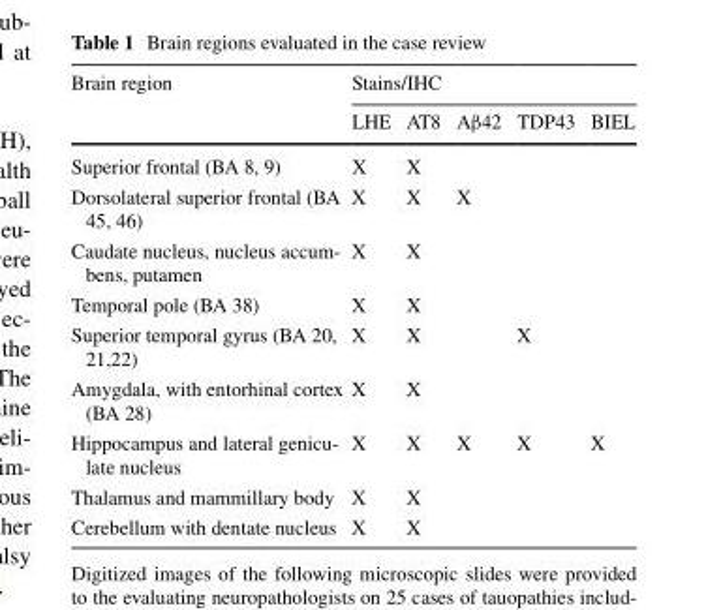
<table><thead><tr><td rowspan="2">Brain region</td><td colspan="5">Stains/IHC</td></tr><tr><td>LHE</td><td>AT8</td><td>Aβ42</td><td>TDP43</td><td>BIEL</td></tr></thead><tbody><tr><td>Superior frontal (BA 8, 9)</td><td>X</td><td>X</td><td></td><td></td><td></td></tr><tr><td>Dorsolateral superior frontal (BA 45, 46)</td><td>X</td><td>X</td><td>X</td><td></td><td></td></tr><tr><td>Caudate nucleus, nucleus accum- bens, putamen</td><td>X</td><td>X</td><td></td><td></td><td></td></tr><tr><td>Temporal pole (BA 38)</td><td>X</td><td>X</td><td></td><td></td><td></td></tr><tr><td>Superior temporal gyrus (BA 20, 21,22)</td><td>X</td><td>X</td><td></td><td>X</td><td></td></tr><tr><td>Amygdala, with entorhinal cortex (BA 28)</td><td>X</td><td>X</td><td></td><td></td><td></td></tr><tr><td>Hippocampus and lateral genicu- late nucleus</td><td>X</td><td>X</td><td>X</td><td>X</td><td>X</td></tr><tr><td>Thalamus and mammillary body</td><td>X</td><td>X</td><td></td><td></td><td></td></tr><tr><td>Cerebellum with dentate nucleus</td><td>X</td><td>X</td><td></td><td></td><td></td></tr></tbody></table>